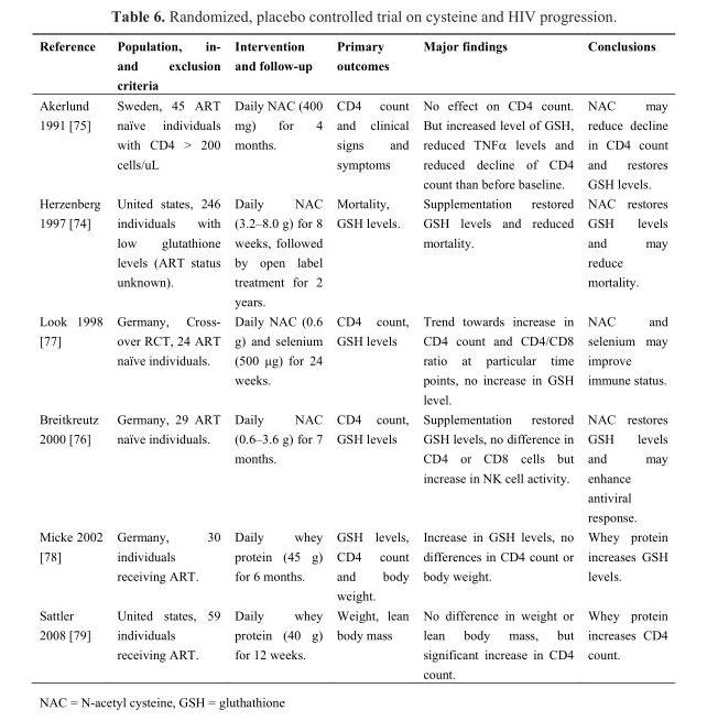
<table><thead><tr><td>Reference</td><td>Population, in- and exclusion criteria</td><td>Intervention and follow-up</td><td>Primary outcomes</td><td>Major findings</td><td>Conclusions</td></tr></thead><tbody><tr><td>Akerlund 1991 [75]</td><td>Sweden, 45 ART naïve individuals with CD4 &gt; 200 cells/uL</td><td>Daily NAC (400 mg) for 4 months.</td><td>CD4 count and clinical signs and symptoms</td><td>No effect on CD4 count. But increased level of GSH, reduced TNFα levels and reduced decline of CD4 count than before baseline.</td><td>NAC may reduce decline in CD4 count and restores GSH levels.</td></tr><tr><td>Herzenberg 1997 [74]</td><td>United states, 246 individuals with low glutathione levels (ART status unknown).</td><td>Daily NAC (3.2–8.0 g) for 8 weeks, followed by open label treatment for 2 years.</td><td>Mortality, GSH levels.</td><td>Supplementation restored GSH levels and reduced mortality.</td><td>NAC restores GSH levels and may reduce mortality.</td></tr><tr><td>Look 1998 [77]</td><td>Germany, Cross- over RCT, 24 ART naïve individuals.</td><td>Daily NAC (0.6 g) and selenium (500 μg) for 24 weeks.</td><td>CD4 count, GSH levels</td><td>Trend towards increase in CD4 count and CD4/CD8 ratio at particular time points, no increase in GSH level.</td><td>NAC and selenium may improve immune status.</td></tr><tr><td>Breitkreutz 2000 [76]</td><td>Germany, 29 ART naïve individuals.</td><td>Daily NAC (0.6–3.6 g) for 7 months.</td><td>CD4 count, GSH levels</td><td>Supplementation restored GSH levels, no difference in CD4 or CD8 cells but increase in NK cell activity.</td><td>NAC restores GSH levels and may enhance antiviral response.</td></tr><tr><td>Micke 2002 [78]</td><td>Germany, 30 individuals receiving ART.</td><td>Daily whey protein (45 g) for 6 months.</td><td>GSH levels, CD4 count and body weight.</td><td>Increase in GSH levels, no differences in CD4 count or body weight.</td><td>Whey protein increases GSH levels.</td></tr><tr><td>Sattler 2008 [79]</td><td>United states, 59 individuals receiving ART.</td><td>Daily whey protein (40 g) for 12 weeks.</td><td>Weight, lean body mass</td><td>No difference in weight or lean body mass, but significant increase in CD4 count.</td><td>Whey protein increases CD4 count.</td></tr></tbody></table>